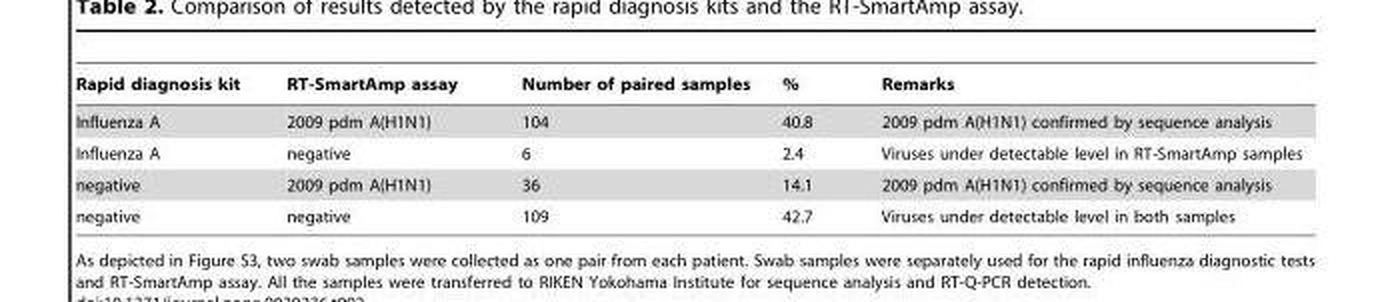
<table><thead><tr><td>Rapid diagnosis kit</td><td>RT-SmartAmp assay</td><td>Number of paired samples</td><td>%</td><td>Remarks</td></tr></thead><tbody><tr><td>Influenza A</td><td>2009 pdm A(H1N1)</td><td>104</td><td>40.8</td><td>2009 pdm A(H1N1) confirmed by sequence analysis</td></tr><tr><td>Influenza A</td><td>negative</td><td>6</td><td>2.4</td><td>Viruses under detectable level in RT-SmartAmp samples</td></tr><tr><td>negative</td><td>2009 pdm A(H1N1)</td><td>36</td><td>14.1</td><td>2009 pdm A(H1N1) confirmed by sequence analysis</td></tr><tr><td>negative</td><td>negative</td><td>109</td><td>42.7</td><td>Viruses under detectable level in both samples</td></tr></tbody></table>